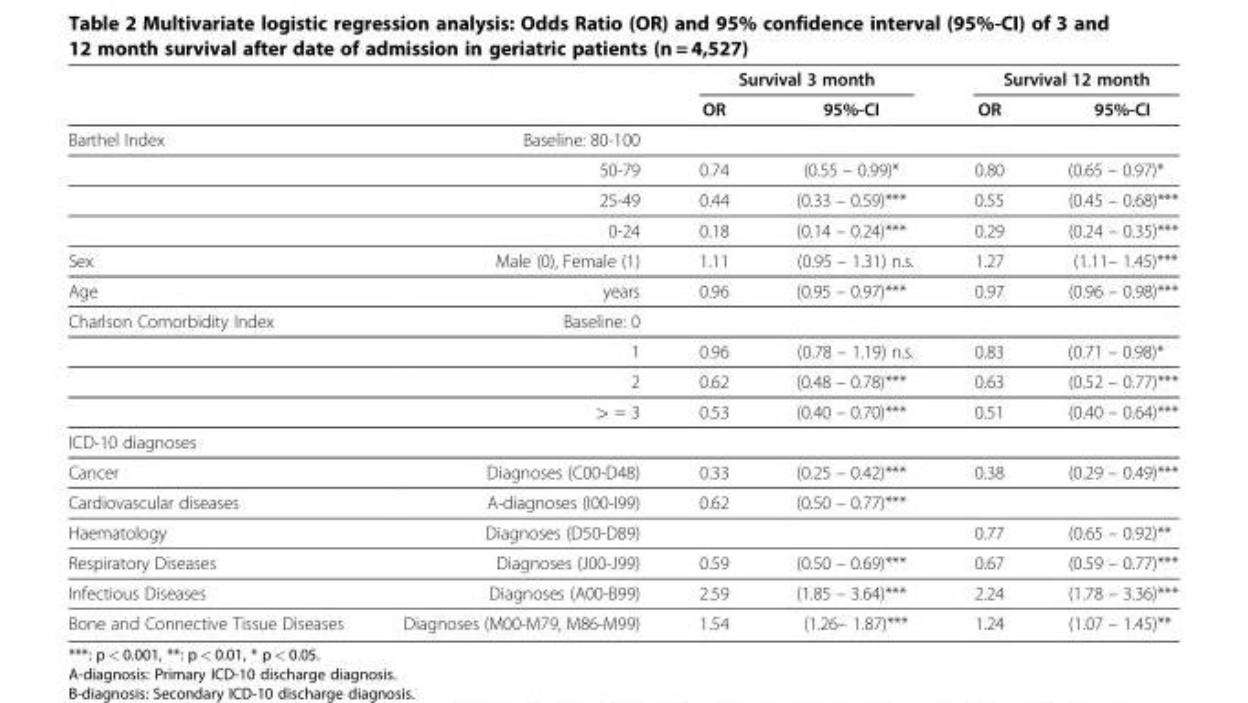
<table><thead><tr><td rowspan="2"></td><td rowspan="2"></td><td colspan="2">Survival 3 month</td><td colspan="2">Survival 12 month</td></tr><tr><td>OR</td><td>95%-CI</td><td>OR</td><td>95%-CI</td></tr></thead><tbody><tr><td rowspan="4">Barthel Index</td><td>Baseline: 80-100</td><td></td><td></td><td></td><td></td></tr><tr><td>50-79</td><td>0.74</td><td>(0.55 – 0.99)*</td><td>0.80</td><td>(0.65 – 0.97)*</td></tr><tr><td>25-49</td><td>0.44</td><td>(0.33 – 0.59)***</td><td>0.55</td><td>(0.45 – 0.68)***</td></tr><tr><td>0-24</td><td>0.18</td><td>(0.14 – 0.24)***</td><td>0.29</td><td>(0.24 – 0.35)***</td></tr><tr><td>Sex</td><td>Male (0), Female (1)</td><td>1.11</td><td>(0.95 – 1.31) n.s.</td><td>1.27</td><td>(1.11– 1.45)***</td></tr><tr><td>Age</td><td>years</td><td>0.96</td><td>(0.95 – 0.97)***</td><td>0.97</td><td>(0.96 – 0.98)***</td></tr><tr><td rowspan="4">Charlson Comorbidity Index</td><td>Baseline: 0</td><td></td><td></td><td></td><td></td></tr><tr><td>1</td><td>0.96</td><td>(0.78 – 1.19) n.s.</td><td>0.83</td><td>(0.71 – 0.98)*</td></tr><tr><td>2</td><td>0.62</td><td>(0.48 – 0.78)***</td><td>0.63</td><td>(0.52 – 0.77)***</td></tr><tr><td>&gt; = 3</td><td>0.53</td><td>(0.40 – 0.70)***</td><td>0.51</td><td>(0.40 – 0.64)***</td></tr><tr><td colspan="6">ICD-10 diagnoses</td></tr><tr><td>Cancer</td><td>Diagnoses (C00-D48)</td><td>0.33</td><td>(0.25 – 0.42)***</td><td>0.38</td><td>(0.29 – 0.49)***</td></tr><tr><td>Cardiovascular diseases</td><td>A-diagnoses (I00-I99)</td><td>0.62</td><td>(0.50 – 0.77)***</td><td></td><td></td></tr><tr><td>Haematology</td><td>Diagnoses (D50-D89)</td><td></td><td></td><td>0.77</td><td>(0.65 – 0.92)**</td></tr><tr><td>Respiratory Diseases</td><td>Diagnoses (J00-J99)</td><td>0.59</td><td>(0.50 – 0.69)***</td><td>0.67</td><td>(0.59 – 0.77)***</td></tr><tr><td>Infectious Diseases</td><td>Diagnoses (A00-B99)</td><td>2.59</td><td>(1.85 – 3.64)***</td><td>2.24</td><td>(1.78 – 3.36)***</td></tr><tr><td>Bone and Connective Tissue Diseases</td><td>Diagnoses (M00-M79, M86-M99)</td><td>1.54</td><td>(1.26– 1.87)***</td><td>1.24</td><td>(1.07 – 1.45)**</td></tr></tbody></table>